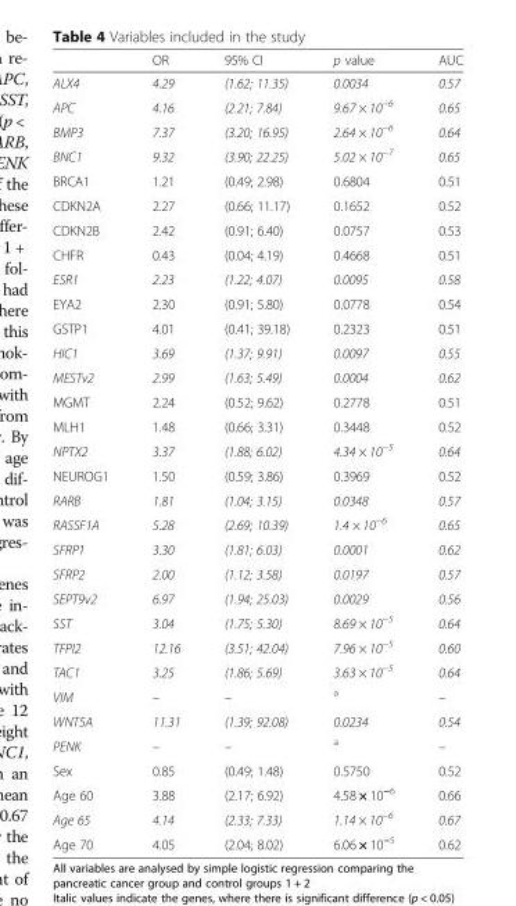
<table><thead><tr><td></td><td>OR</td><td>95% CI</td><td>p value</td><td>AUC</td></tr></thead><tbody><tr><td>ALX4</td><td>4.29</td><td>(1.62; 11.35)</td><td>0.0034</td><td>0.57</td></tr><tr><td>APC</td><td>4.16</td><td>(2.21; 7.84)</td><td>9.67 × 10<sup>−6</sup></td><td>0.65</td></tr><tr><td>BMP3</td><td>7.37</td><td>(3.20; 16.95)</td><td>2.64 × 10<sup>−6</sup></td><td>0.64</td></tr><tr><td>BNC1</td><td>9.32</td><td>(3.90; 22.25)</td><td>5.02 × 10<sup>−7</sup></td><td>0.65</td></tr><tr><td>BRCA1</td><td>1.21</td><td>(0.49; 2.98)</td><td>0.6804</td><td>0.51</td></tr><tr><td>CDKN2A</td><td>2.27</td><td>(0.66; 11.17)</td><td>0.1652</td><td>0.52</td></tr><tr><td>CDKN2B</td><td>2.42</td><td>(0.91; 6.40)</td><td>0.0757</td><td>0.53</td></tr><tr><td>CHFR</td><td>0.43</td><td>(0.04; 4.19)</td><td>0.4668</td><td>0.51</td></tr><tr><td>ESR1</td><td>2.23</td><td>(1.22; 4.07)</td><td>0.0095</td><td>0.58</td></tr><tr><td>EYA2</td><td>2.30</td><td>(0.91; 5.80)</td><td>0.0778</td><td>0.54</td></tr><tr><td>GSTP1</td><td>4.01</td><td>(0.41; 39.18)</td><td>0.2323</td><td>0.51</td></tr><tr><td>HIC1</td><td>3.69</td><td>(1.37; 9.91)</td><td>0.0097</td><td>0.55</td></tr><tr><td>MESTv2</td><td>2.99</td><td>(1.63; 5.49)</td><td>0.0004</td><td>0.62</td></tr><tr><td>MGMT</td><td>2.24</td><td>(0.52; 9.62)</td><td>0.2778</td><td>0.51</td></tr><tr><td>MLH1</td><td>1.48</td><td>(0.66; 3.31)</td><td>0.3448</td><td>0.52</td></tr><tr><td>NPTX2</td><td>3.37</td><td>(1.88; 6.02)</td><td>4.34 × 10<sup>−5</sup></td><td>0.64</td></tr><tr><td>NEUROG1</td><td>1.50</td><td>(0.59; 3.86)</td><td>0.3969</td><td>0.52</td></tr><tr><td>RARB</td><td>1.81</td><td>(1.04; 3.15)</td><td>0.0348</td><td>0.57</td></tr><tr><td>RASSF1A</td><td>5.28</td><td>(2.69; 10.39)</td><td>1.4 × 10<sup>−6</sup></td><td>0.65</td></tr><tr><td>SFRP1</td><td>3.30</td><td>(1.81; 6.03)</td><td>0.0001</td><td>0.62</td></tr><tr><td>SFRP2</td><td>2.00</td><td>(1.12; 3.58)</td><td>0.0197</td><td>0.57</td></tr><tr><td>SEPT9v2</td><td>6.97</td><td>(1.94; 25.03)</td><td>0.0029</td><td>0.56</td></tr><tr><td>SST</td><td>3.04</td><td>(1.75; 5.30)</td><td>8.69 × 10<sup>−5</sup></td><td>0.64</td></tr><tr><td>TFPI2</td><td>12.16</td><td>(3.51; 42.04)</td><td>7.96 × 10<sup>−5</sup></td><td>0.60</td></tr><tr><td>TAC1</td><td>3.25</td><td>(1.86; 5.69)</td><td>3.63 × 10<sup>−5</sup></td><td>0.64</td></tr><tr><td>VIM</td><td>–</td><td>–</td><td><sup>a</sup></td><td>–</td></tr><tr><td>WNT5A</td><td>11.31</td><td>(1.39; 92.08)</td><td>0.0234</td><td>0.54</td></tr><tr><td>PENK</td><td>–</td><td>–</td><td><sup>a</sup></td><td>–</td></tr><tr><td>Sex</td><td>0.85</td><td>(0.49; 1.48)</td><td>0.5750</td><td>0.52</td></tr><tr><td>Age 60</td><td>3.88</td><td>(2.17; 6.92)</td><td>4.58 × 10<sup>−6</sup></td><td>0.66</td></tr><tr><td>Age 65</td><td>4.14</td><td>(2.33; 7.33)</td><td>1.14 × 10<sup>−6</sup></td><td>0.67</td></tr><tr><td>Age 70</td><td>4.05</td><td>(2.04; 8.02)</td><td>6.06 × 10<sup>−5</sup></td><td>0.62</td></tr></tbody></table>